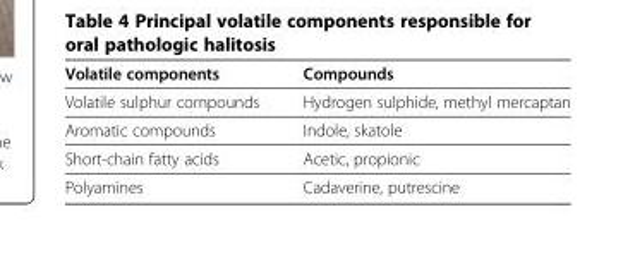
<table><thead><tr><td>Volatile components</td><td>Compounds</td></tr></thead><tbody><tr><td>Volatile sulphur compounds</td><td>Hydrogen sulphide, methyl mercaptan</td></tr><tr><td>Aromatic compounds</td><td>Indole, skatole</td></tr><tr><td>Short-chain fatty acids</td><td>Acetic, propionic</td></tr><tr><td>Polyamines</td><td>Cadaverine, putrescine</td></tr></tbody></table>